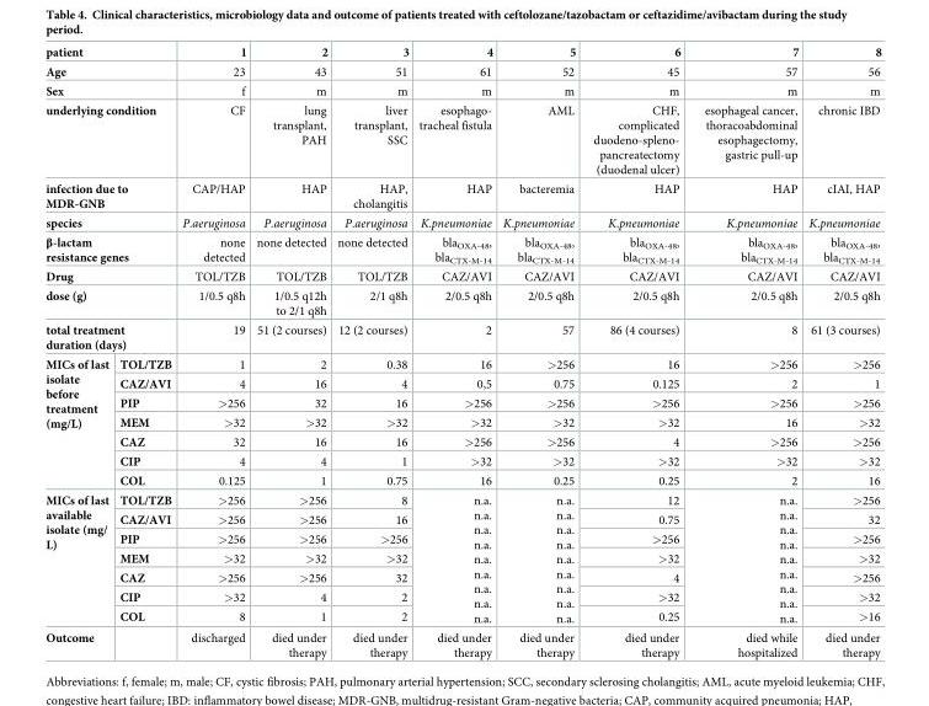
<table><thead><tr><td colspan="2">patient</td><td>1</td><td>2</td><td>3</td><td>4</td><td>5</td><td>6</td><td>7</td><td>8</td></tr></thead><tbody><tr><td colspan="2">Age</td><td>23</td><td>43</td><td>51</td><td>61</td><td>52</td><td>45</td><td>57</td><td>56</td></tr><tr><td colspan="2">Sex</td><td>f</td><td>m</td><td>m</td><td>m</td><td>m</td><td>m</td><td>m</td><td>m</td></tr><tr><td colspan="2">underlying condition</td><td>CF</td><td>lung transplant, PAH</td><td>liver transplant, SSC</td><td>esophago- tracheal fistula</td><td>AML</td><td>CHF, complicated duodeno-spleno- pancreatectomy (duodenal ulcer)</td><td>esophageal cancer, thoracoabdominal esophagectomy, gastric pull-up</td><td>chronic IBD</td></tr><tr><td colspan="2">infection due to MDR-GNB</td><td>CAP/HAP</td><td>HAP</td><td>HAP, cholangitis</td><td>HAP</td><td>bacteremia</td><td>HAP</td><td>HAP</td><td>cIAI, HAP</td></tr><tr><td colspan="2">species</td><td>P.aeruginosa</td><td>P.aeruginosa</td><td>P.aeruginosa</td><td>K.pneumoniae</td><td>K.pneumoniae</td><td>K.pneumoniae</td><td>K.pneumoniae</td><td>K.pneumoniae</td></tr><tr><td colspan="2">β-lactam resistance genes</td><td>none detected</td><td>none detected</td><td>none detected</td><td>bla<sub>OXA-48</sub>, bla<sub>CTX-M-14</sub></td><td>bla<sub>OXA-48</sub>, bla<sub>CTX-M-14</sub></td><td>bla<sub>OXA-48</sub>, bla<sub>CTX-M-14</sub></td><td>bla<sub>OXA-48</sub>, bla<sub>CTX-M-14</sub></td><td>bla<sub>OXA-48</sub>, bla<sub>CTX-M-14</sub></td></tr><tr><td colspan="2">Drug</td><td>TOL/TZB</td><td>TOL/TZB</td><td>TOL/TZB</td><td>CAZ/AVI</td><td>CAZ/AVI</td><td>CAZ/AVI</td><td>CAZ/AVI</td><td>CAZ/AVI</td></tr><tr><td colspan="2">dose (g)</td><td>1/0.5 q8h</td><td>1/0.5 q12h to 2/1 q8h</td><td>2/1 q8h</td><td>2/0.5 q8h</td><td>2/0.5 q8h</td><td>2/0.5 q8h</td><td>2/0.5 q8h</td><td>2/0.5 q8h</td></tr><tr><td colspan="2">total treatment duration (days)</td><td>19</td><td>51 (2 courses)</td><td>12 (2 courses)</td><td>2</td><td>57</td><td>86 (4 courses)</td><td>8</td><td>61 (3 courses)</td></tr><tr><td rowspan="7">MICs of last isolate before treatment (mg/L)</td><td>TOL/TZB</td><td>1</td><td>2</td><td>0.38</td><td>16</td><td>&gt;256</td><td>16</td><td>&gt;256</td><td>&gt;256</td></tr><tr><td>CAZ/AVI</td><td>4</td><td>16</td><td>4</td><td>0,5</td><td>0.75</td><td>0.125</td><td>2</td><td>1</td></tr><tr><td>PIP</td><td>&gt;256</td><td>32</td><td>16</td><td>&gt;256</td><td>&gt;256</td><td>&gt;256</td><td>&gt;256</td><td>&gt;256</td></tr><tr><td>MEM</td><td>&gt;32</td><td>&gt;32</td><td>&gt;32</td><td>&gt;32</td><td>&gt;32</td><td>&gt;32</td><td>16</td><td>&gt;32</td></tr><tr><td>CAZ</td><td>32</td><td>16</td><td>16</td><td>&gt;256</td><td>&gt;256</td><td>4</td><td>&gt;256</td><td>&gt;256</td></tr><tr><td>CIP</td><td>4</td><td>4</td><td>1</td><td>&gt;32</td><td>&gt;32</td><td>&gt;32</td><td>&gt;32</td><td>&gt;32</td></tr><tr><td>COL</td><td>0.125</td><td>1</td><td>0.75</td><td>16</td><td>0.25</td><td>0.25</td><td>2</td><td>16</td></tr><tr><td rowspan="7">MICs of last available isolate (mg/ L)</td><td>TOL/TZB</td><td>&gt;256</td><td>&gt;256</td><td>8</td><td rowspan="7">n.a. n.a. n.a. n.a. n.a. n.a. n.a. n.a. n.a.</td><td rowspan="7">n.a. n.a. n.a. n.a. n.a. n.a. n.a. n.a. n.a.</td><td>12</td><td rowspan="7">n.a. n.a. n.a. n.a. n.a. n.a. n.a. n.a. n.a.</td><td>&gt;256</td></tr><tr><td>CAZ/AVI</td><td>&gt;256</td><td>&gt;256</td><td>16</td><td>0.75</td><td>32</td></tr><tr><td>PIP</td><td>&gt;256</td><td>&gt;256</td><td>&gt;256</td><td>&gt;256</td><td>&gt;256</td></tr><tr><td>MEM</td><td>&gt;32</td><td>&gt;32</td><td>&gt;32</td><td>&gt;32</td><td>&gt;32</td></tr><tr><td>CAZ</td><td>&gt;256</td><td>&gt;256</td><td>32</td><td>4</td><td>&gt;256</td></tr><tr><td>CIP</td><td>&gt;32</td><td>4</td><td>2</td><td>&gt;32</td><td>&gt;32</td></tr><tr><td>COL</td><td>8</td><td>1</td><td>2</td><td>0.25</td><td>&gt;16</td></tr><tr><td>Outcome</td><td></td><td>discharged</td><td>died under therapy</td><td>died under therapy</td><td>died under therapy</td><td>died under therapy</td><td>died under therapy</td><td>died while hospitalized</td><td>died under therapy</td></tr></tbody></table>